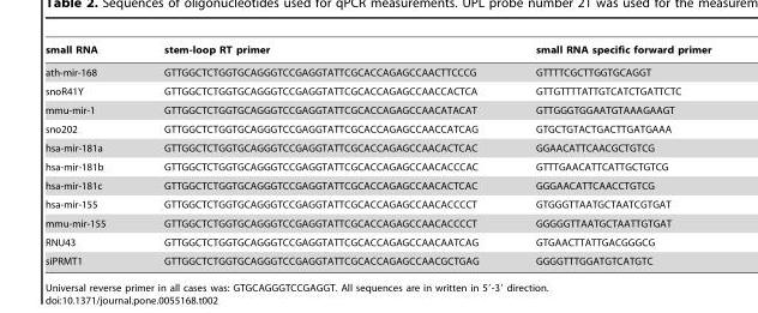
<table><thead><tr><td>small RNA</td><td>stem-loop RT primer</td><td>small RNA specific forward primer</td></tr></thead><tbody><tr><td>ath-mir-168</td><td>GTTGGCTCTGGTGCAGGGTCCGAGGTATTCGCACCAGAGCCAACTTCCCG</td><td>GTTTTCGCTTGGTGCAGGT</td></tr><tr><td>snoR41Y</td><td>GTTGGCTCTGGTGCAGGGTCCGAGGTATTCGCACCAGAGCCAACCACTCA</td><td>GTTGTTTTATTGTCATCTGATTCTC</td></tr><tr><td>mmu-mir-1</td><td>GTTGGCTCTGGTGCAGGGTCCGAGGTATTCGCACCAGAGCCAACATACAT</td><td>GTTGGGTGGAATGTAAAGAAGT</td></tr><tr><td>sno202</td><td>GTTGGCTCTGGTGCAGGGTCCGAGGTATTCGCACCAGAGCCAACCATCAG</td><td>GTGCTGTACTGACTTGATGAAA</td></tr><tr><td>hsa-mir-181a</td><td>GTTGGCTCTGGTGCAGGGTCCGAGGTATTCGCACCAGAGCCAACACTCAC</td><td>GGAACATTCAACGCTGTCG</td></tr><tr><td>hsa-mir-181b</td><td>GTTGGCTCTGGTGCAGGGTCCGAGGTATTCGCACCAGAGCCAACACCCAC</td><td>GTTTGAACATTCATTGCTGTCG</td></tr><tr><td>hsa-mir-181c</td><td>GTTGGCTCTGGTGCAGGGTCCGAGGTATTCGCACCAGAGCCAACACTCAC</td><td>GGGAACATTCAACCTGTCG</td></tr><tr><td>hsa-mir-155</td><td>GTTGGCTCTGGTGCAGGGTCCGAGGTATTCGCACCAGAGCCAACACCCCT</td><td>GTGGGTTAATGCTAATCGTGAT</td></tr><tr><td>mmu-mir-155</td><td>GTTGGCTCTGGTGCAGGGTCCGAGGTATTCGCACCAGAGCCAACACCCCT</td><td>GGGGGTTAATGCTAATTGTGAT</td></tr><tr><td>RNU43</td><td>GTTGGCTCTGGTGCAGGGTCCGAGGTATTCGCACCAGAGCCAACAATCAG</td><td>GTGAACTTATTGACGGGCG</td></tr><tr><td>siPRMT1</td><td>GTTGGCTCTGGTGCAGGGTCCGAGGTATTCGCACCAGAGCCAACGCTGAG</td><td>GGGGTTTGGATGTCATGTC</td></tr></tbody></table>